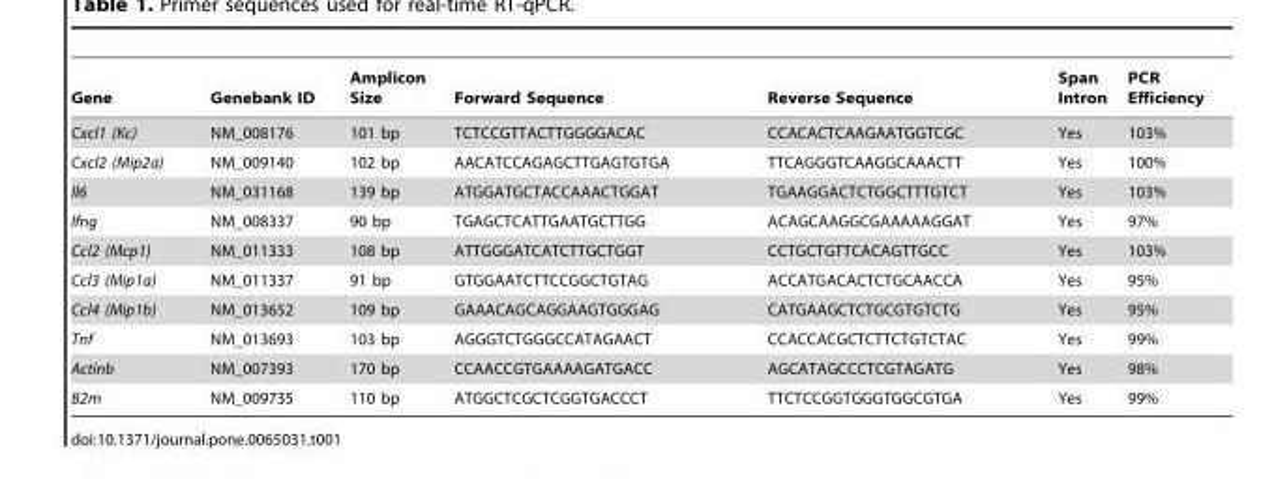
<table><thead><tr><td>Gene</td><td>Genebank ID</td><td>Amplicon Size</td><td>Forward Sequence</td><td>Reverse Sequence</td><td>Span Intron</td><td>PCR Efficiency</td></tr></thead><tbody><tr><td>Cxcl1 (Kc)</td><td>NM_008176</td><td>101 bp</td><td>TCTCCGTTACTTGGGGACAC</td><td>CCACACTCAAGAATGGTCGC</td><td>Yes</td><td>103%</td></tr><tr><td>Cxcl2 (Mip2a)</td><td>NM_009140</td><td>102 bp</td><td>AACATCCAGAGCTTGAGTGTGA</td><td>TTCAGGGTCAAGGCAAACTT</td><td>Yes</td><td>100%</td></tr><tr><td>Il6</td><td>NM_031168</td><td>139 bp</td><td>ATGGATGCTACCAAACTGGAT</td><td>TGAAGGACTCTGGCTTTGTCT</td><td>Yes</td><td>103%</td></tr><tr><td>Ifng</td><td>NM_008337</td><td>90 bp</td><td>TGAGCTCATTGAATGCTTGG</td><td>ACAGCAAGGCGAAAAAGGAT</td><td>Yes</td><td>97%</td></tr><tr><td>Ccl2 (Mcp1)</td><td>NM_011333</td><td>108 bp</td><td>ATTGGGATCATCTTGCTGGT</td><td>CCTGCTGTTCACAGTTGCC</td><td>Yes</td><td>103%</td></tr><tr><td>Ccl3 (Mip1a)</td><td>NM_011337</td><td>91 bp</td><td>GTGGAATCTTCCGGCTGTAG</td><td>ACCATGACACTCTGCAACCA</td><td>Yes</td><td>95%</td></tr><tr><td>Ccl4 (Mip1b)</td><td>NM_013652</td><td>109 bp</td><td>GAAACAGCAGGAAGTGGGAG</td><td>CATGAAGCTCTGCGTGTCTG</td><td>Yes</td><td>95%</td></tr><tr><td>Tnf</td><td>NM_013693</td><td>103 bp</td><td>AGGGTCTGGGCCATAGAACT</td><td>CCACCACGCTCTTCTGTCTAC</td><td>Yes</td><td>99%</td></tr><tr><td>Actinb</td><td>NM_007393</td><td>170 bp</td><td>CCAACCGTGAAAAGATGACC</td><td>AGCATAGCCCTCGTAGATG</td><td>Yes</td><td>98%</td></tr><tr><td>B2m</td><td>NM_009735</td><td>110 bp</td><td>ATGGCTCGCTCGGTGACCCT</td><td>TTCTCCGGTGGGTGGCGTGA</td><td>Yes</td><td>99%</td></tr></tbody></table>